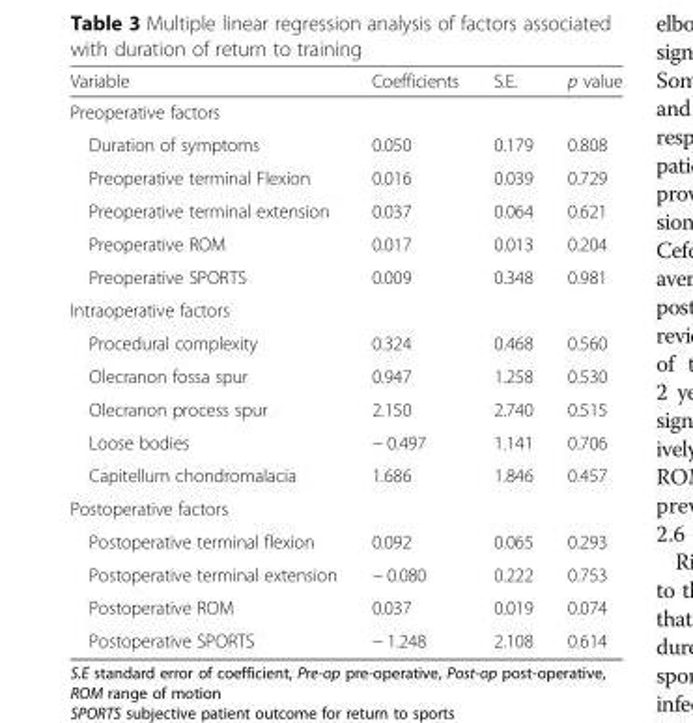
<table><thead><tr><td>Variable</td><td>Coefficients</td><td>S.E.</td><td>p value</td></tr></thead><tbody><tr><td colspan="4">Preoperative factors</td></tr><tr><td>Duration of symptoms</td><td>0.050</td><td>0.179</td><td>0.808</td></tr><tr><td>Preoperative terminal Flexion</td><td>0.016</td><td>0.039</td><td>0.729</td></tr><tr><td>Preoperative terminal extension</td><td>0.037</td><td>0.064</td><td>0.621</td></tr><tr><td>Preoperative ROM</td><td>0.017</td><td>0.013</td><td>0.204</td></tr><tr><td>Preoperative SPORTS</td><td>0.009</td><td>0.348</td><td>0.981</td></tr><tr><td colspan="4">Intraoperative factors</td></tr><tr><td>Procedural complexity</td><td>0.324</td><td>0.468</td><td>0.560</td></tr><tr><td>Olecranon fossa spur</td><td>0.947</td><td>1.258</td><td>0.530</td></tr><tr><td>Olecranon process spur</td><td>2.150</td><td>2.740</td><td>0.515</td></tr><tr><td>Loose bodies</td><td>− 0.497</td><td>1.141</td><td>0.706</td></tr><tr><td>Capitellum chondromalacia</td><td>1.686</td><td>1.846</td><td>0.457</td></tr><tr><td colspan="4">Postoperative factors</td></tr><tr><td>Postoperative terminal flexion</td><td>0.092</td><td>0.065</td><td>0.293</td></tr><tr><td>Postoperative terminal extension</td><td>− 0.080</td><td>0.222</td><td>0.753</td></tr><tr><td>Postoperative ROM</td><td>0.037</td><td>0.019</td><td>0.074</td></tr><tr><td>Postoperative SPORTS</td><td>− 1.248</td><td>2.108</td><td>0.614</td></tr></tbody></table>